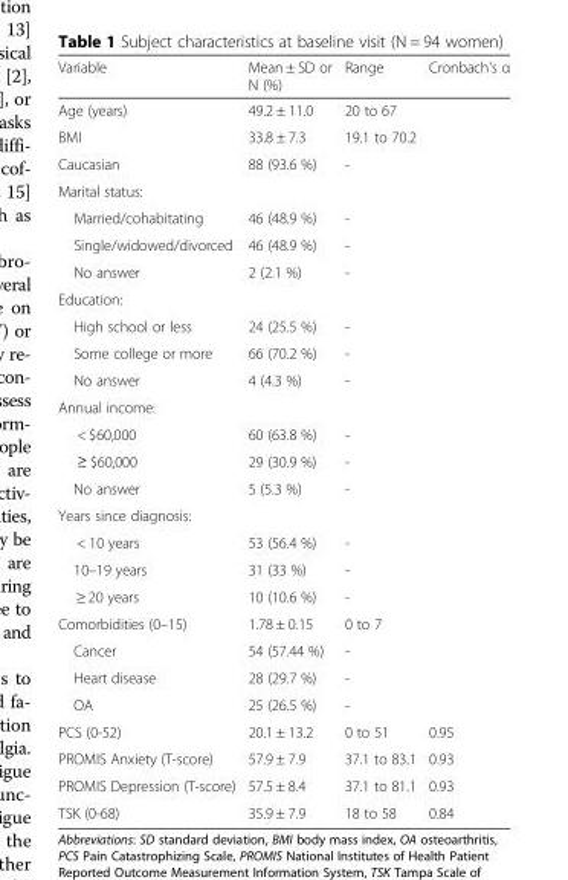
<table><thead><tr><td>Variable</td><td>Mean ± SD or N (%)</td><td>Range</td><td>Cronbach&#x27;s α</td></tr></thead><tbody><tr><td>Age (years)</td><td>49.2 ± 11.0</td><td>20 to 67</td><td></td></tr><tr><td>BMI</td><td>33.8 ± 7.3</td><td>19.1 to 70.2</td><td></td></tr><tr><td>Caucasian</td><td>88 (93.6 %)</td><td>-</td><td></td></tr><tr><td colspan="4">Marital status:</td></tr><tr><td>Married/cohabitating</td><td>46 (48.9 %)</td><td>-</td><td></td></tr><tr><td>Single/widowed/divorced</td><td>46 (48.9 %)</td><td>-</td><td></td></tr><tr><td>No answer</td><td>2 (2.1 %)</td><td>-</td><td></td></tr><tr><td colspan="4">Education:</td></tr><tr><td>High school or less</td><td>24 (25.5 %)</td><td>-</td><td></td></tr><tr><td>Some college or more</td><td>66 (70.2 %)</td><td>-</td><td></td></tr><tr><td>No answer</td><td>4 (4.3 %)</td><td>-</td><td></td></tr><tr><td colspan="4">Annual income:</td></tr><tr><td>&lt; $60,000</td><td>60 (63.8 %)</td><td>-</td><td></td></tr><tr><td>≥ $60,000</td><td>29 (30.9 %)</td><td>-</td><td></td></tr><tr><td>No answer</td><td>5 (5.3 %)</td><td>-</td><td></td></tr><tr><td colspan="4">Years since diagnosis:</td></tr><tr><td>&lt; 10 years</td><td>53 (56.4 %)</td><td>-</td><td></td></tr><tr><td>10–19 years</td><td>31 (33 %)</td><td>-</td><td></td></tr><tr><td>≥ 20 years</td><td>10 (10.6 %)</td><td>-</td><td></td></tr><tr><td>Comorbidities (0–15)</td><td>1.78 ± 0.15</td><td>0 to 7</td><td></td></tr><tr><td>Cancer</td><td>54 (57.44 %)</td><td>-</td><td></td></tr><tr><td>Heart disease</td><td>28 (29.7 %)</td><td>-</td><td></td></tr><tr><td>OA</td><td>25 (26.5 %)</td><td>-</td><td></td></tr><tr><td>PCS (0-52)</td><td>20.1 ± 13.2</td><td>0 to 51</td><td>0.95</td></tr><tr><td>PROMIS Anxiety (T-score)</td><td>57.9 ± 7.9</td><td>37.1 to 83.1</td><td>0.93</td></tr><tr><td>PROMIS Depression (T-score)</td><td>57.5 ± 8.4</td><td>37.1 to 81.1</td><td>0.93</td></tr><tr><td>TSK (0-68)</td><td>35.9 ± 7.9</td><td>18 to 58</td><td>0.84</td></tr></tbody></table>